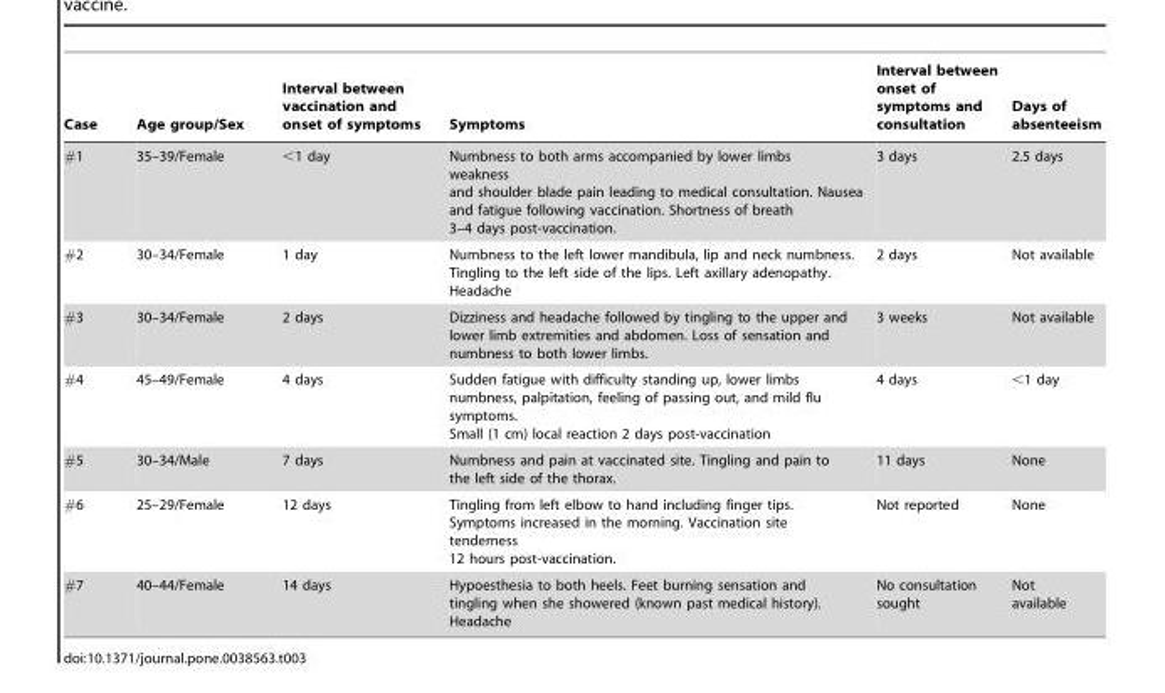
<table><thead><tr><td>Case</td><td>Age group/Sex</td><td>Interval between vaccination and onset of symptoms</td><td>Symptoms</td><td>Interval between onset of symptoms and consultation</td><td>Days of absenteeism</td></tr></thead><tbody><tr><td>#1</td><td>35–39/Female</td><td>&lt;1 day</td><td>Numbness to both arms accompanied by lower limbs weakness and shoulder blade pain leading to medical consultation. Nausea and fatigue following vaccination. Shortness of breath 3–4 days post-vaccination.</td><td>3 days</td><td>2.5 days</td></tr><tr><td>#2</td><td>30–34/Female</td><td>1 day</td><td>Numbness to the left lower mandibula, lip and neck numbness. Tingling to the left side of the lips. Left axillary adenopathy. Headache</td><td>2 days</td><td>Not available</td></tr><tr><td>#3</td><td>30–34/Female</td><td>2 days</td><td>Dizziness and headache followed by tingling to the upper and lower limb extremities and abdomen. Loss of sensation and numbness to both lower limbs.</td><td>3 weeks</td><td>Not available</td></tr><tr><td>#4</td><td>45–49/Female</td><td>4 days</td><td>Sudden fatigue with difficulty standing up, lower limbs numbness, palpitation, feeling of passing out, and mild flu symptoms. Small (1 cm) local reaction 2 days post-vaccination</td><td>4 days</td><td>&lt;1 day</td></tr><tr><td>#5</td><td>30–34/Male</td><td>7 days</td><td>Numbness and pain at vaccinated site. Tingling and pain to the left side of the thorax.</td><td>11 days</td><td>None</td></tr><tr><td>#6</td><td>25–29/Female</td><td>12 days</td><td>Tingling from left elbow to hand including finger tips. Symptoms increased in the morning. Vaccination site tenderness 12 hours post-vaccination.</td><td>Not reported</td><td>None</td></tr><tr><td>#7</td><td>40–44/Female</td><td>14 days</td><td>Hypoesthesia to both heels. Feet burning sensation and tingling when she showered (known past medical history). Headache</td><td>No consultation sought</td><td>Not available</td></tr></tbody></table>